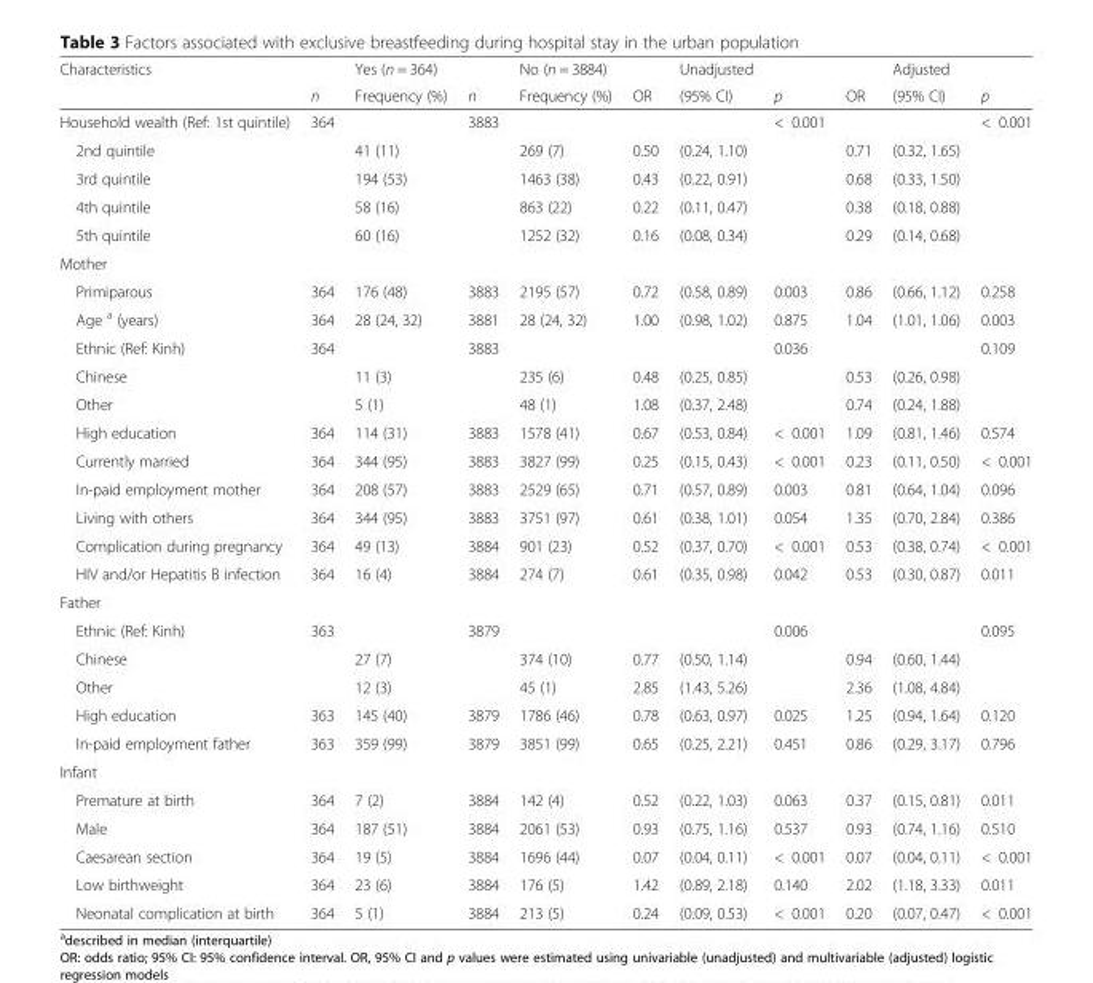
<table><thead><tr><td rowspan="2">Characteristics</td><td rowspan="2">n</td><td rowspan="2">Yes (n = 364) Frequency (%)</td><td rowspan="2">n</td><td rowspan="2">No (n = 3884) Frequency (%)</td><td rowspan="2">OR</td><td rowspan="2">Unadjusted (95% CI)</td><td rowspan="2">p</td><td rowspan="2">OR</td><td rowspan="2">Adjusted (95% CI)</td><td rowspan="2">p</td></tr><tr></tr></thead><tbody><tr><td>Household wealth (Ref: 1st quintile)</td><td>364</td><td></td><td>3883</td><td></td><td></td><td></td><td>&lt; 0.001</td><td></td><td></td><td>&lt; 0.001</td></tr><tr><td>2nd quintile</td><td></td><td>41 (11)</td><td></td><td>269 (7)</td><td>0.50</td><td>(0.24, 1.10)</td><td></td><td>0.71</td><td>(0.32, 1.65)</td><td></td></tr><tr><td>3rd quintile</td><td></td><td>194 (53)</td><td></td><td>1463 (38)</td><td>0.43</td><td>(0.22, 0.91)</td><td></td><td>0.68</td><td>(0.33, 1.50)</td><td></td></tr><tr><td>4th quintile</td><td></td><td>58 (16)</td><td></td><td>863 (22)</td><td>0.22</td><td>(0.11, 0.47)</td><td></td><td>0.38</td><td>(0.18, 0.88)</td><td></td></tr><tr><td>5th quintile</td><td></td><td>60 (16)</td><td></td><td>1252 (32)</td><td>0.16</td><td>(0.08, 0.34)</td><td></td><td>0.29</td><td>(0.14, 0.68)</td><td></td></tr><tr><td colspan="11">Mother</td></tr><tr><td>Primiparous</td><td>364</td><td>176 (48)</td><td>3883</td><td>2195 (57)</td><td>0.72</td><td>(0.58, 0.89)</td><td>0.003</td><td>0.86</td><td>(0.66, 1.12)</td><td>0.258</td></tr><tr><td>Age <sup>a</sup> (years)</td><td>364</td><td>28 (24, 32)</td><td>3881</td><td>28 (24, 32)</td><td>1.00</td><td>(0.98, 1.02)</td><td>0.875</td><td>1.04</td><td>(1.01, 1.06)</td><td>0.003</td></tr><tr><td>Ethnic (Ref: Kinh)</td><td>364</td><td></td><td>3883</td><td></td><td></td><td></td><td>0.036</td><td></td><td></td><td>0.109</td></tr><tr><td>Chinese</td><td></td><td>11 (3)</td><td></td><td>235 (6)</td><td>0.48</td><td>(0.25, 0.85)</td><td></td><td>0.53</td><td>(0.26, 0.98)</td><td></td></tr><tr><td>Other</td><td></td><td>5 (1)</td><td></td><td>48 (1)</td><td>1.08</td><td>(0.37, 2.48)</td><td></td><td>0.74</td><td>(0.24, 1.88)</td><td></td></tr><tr><td>High education</td><td>364</td><td>114 (31)</td><td>3883</td><td>1578 (41)</td><td>0.67</td><td>(0.53, 0.84)</td><td>&lt; 0.001</td><td>1.09</td><td>(0.81, 1.46)</td><td>0.574</td></tr><tr><td>Currently married</td><td>364</td><td>344 (95)</td><td>3883</td><td>3827 (99)</td><td>0.25</td><td>(0.15, 0.43)</td><td>&lt; 0.001</td><td>0.23</td><td>(0.11, 0.50)</td><td>&lt; 0.001</td></tr><tr><td>In-paid employment mother</td><td>364</td><td>208 (57)</td><td>3883</td><td>2529 (65)</td><td>0.71</td><td>(0.57, 0.89)</td><td>0.003</td><td>0.81</td><td>(0.64, 1.04)</td><td>0.096</td></tr><tr><td>Living with others</td><td>364</td><td>344 (95)</td><td>3883</td><td>3751 (97)</td><td>0.61</td><td>(0.38, 1.01)</td><td>0.054</td><td>1.35</td><td>(0.70, 2.84)</td><td>0.386</td></tr><tr><td>Complication during pregnancy</td><td>364</td><td>49 (13)</td><td>3884</td><td>901 (23)</td><td>0.52</td><td>(0.37, 0.70)</td><td>&lt; 0.001</td><td>0.53</td><td>(0.38, 0.74)</td><td>&lt; 0.001</td></tr><tr><td>HIV and/or Hepatitis B infection</td><td>364</td><td>16 (4)</td><td>3884</td><td>274 (7)</td><td>0.61</td><td>(0.35, 0.98)</td><td>0.042</td><td>0.53</td><td>(0.30, 0.87)</td><td>0.011</td></tr><tr><td colspan="11">Father</td></tr><tr><td>Ethnic (Ref: Kinh)</td><td>363</td><td></td><td>3879</td><td></td><td></td><td></td><td>0.006</td><td></td><td></td><td>0.095</td></tr><tr><td>Chinese</td><td></td><td>27 (7)</td><td></td><td>374 (10)</td><td>0.77</td><td>(0.50, 1.14)</td><td></td><td>0.94</td><td>(0.60, 1.44)</td><td></td></tr><tr><td>Other</td><td></td><td>12 (3)</td><td></td><td>45 (1)</td><td>2.85</td><td>(1.43, 5.26)</td><td></td><td>2.36</td><td>(1.08, 4.84)</td><td></td></tr><tr><td>High education</td><td>363</td><td>145 (40)</td><td>3879</td><td>1786 (46)</td><td>0.78</td><td>(0.63, 0.97)</td><td>0.025</td><td>1.25</td><td>(0.94, 1.64)</td><td>0.120</td></tr><tr><td>In-paid employment father</td><td>363</td><td>359 (99)</td><td>3879</td><td>3851 (99)</td><td>0.65</td><td>(0.25, 2.21)</td><td>0.451</td><td>0.86</td><td>(0.29, 3.17)</td><td>0.796</td></tr><tr><td colspan="11">Infant</td></tr><tr><td>Premature at birth</td><td>364</td><td>7 (2)</td><td>3884</td><td>142 (4)</td><td>0.52</td><td>(0.22, 1.03)</td><td>0.063</td><td>0.37</td><td>(0.15, 0.81)</td><td>0.011</td></tr><tr><td>Male</td><td>364</td><td>187 (51)</td><td>3884</td><td>2061 (53)</td><td>0.93</td><td>(0.75, 1.16)</td><td>0.537</td><td>0.93</td><td>(0.74, 1.16)</td><td>0.510</td></tr><tr><td>Caesarean section</td><td>364</td><td>19 (5)</td><td>3884</td><td>1696 (44)</td><td>0.07</td><td>(0.04, 0.11)</td><td>&lt; 0.001</td><td>0.07</td><td>(0.04, 0.11)</td><td>&lt; 0.001</td></tr><tr><td>Low birthweight</td><td>364</td><td>23 (6)</td><td>3884</td><td>176 (5)</td><td>1.42</td><td>(0.89, 2.18)</td><td>0.140</td><td>2.02</td><td>(1.18, 3.33)</td><td>0.011</td></tr><tr><td>Neonatal complication at birth</td><td>364</td><td>5 (1)</td><td>3884</td><td>213 (5)</td><td>0.24</td><td>(0.09, 0.53)</td><td>&lt; 0.001</td><td>0.20</td><td>(0.07, 0.47)</td><td>&lt; 0.001</td></tr></tbody></table>